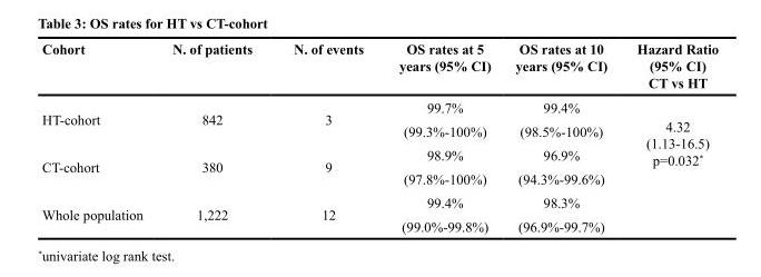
<table><thead><tr><td>Cohort</td><td>N. of patients</td><td>N. of events</td><td>OS rates at 5 years (95% CI)</td><td>OS rates at 10 years (95% CI)</td><td>Hazard Ratio (95% CI) CT vs HT</td></tr></thead><tbody><tr><td rowspan="2">HT-cohort</td><td rowspan="2">842</td><td rowspan="2">3</td><td>99.7%</td><td>99.4%</td><td rowspan="4">4.32 (1.13-16.5) p=0.032*</td></tr><tr><td>(99.3%-100%)</td><td>(98.5%-100%)</td></tr><tr><td rowspan="2">CT-cohort</td><td rowspan="2">380</td><td rowspan="2">9</td><td>98.9%</td><td>96.9%</td></tr><tr><td>(97.8%-100%)</td><td>(94.3%-99.6%)</td></tr><tr><td rowspan="2">Whole population</td><td rowspan="2">1,222</td><td rowspan="2">12</td><td>99.4%</td><td>98.3%</td><td rowspan="2"></td></tr><tr><td>(99.0%-99.8%)</td><td>(96.9%-99.7%)</td></tr></tbody></table>